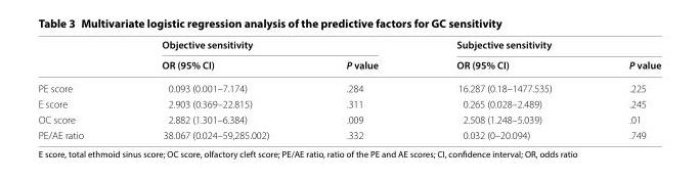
<table><thead><tr><td rowspan="2"></td><td colspan="2">Objective sensitivity</td><td colspan="2">Subjective sensitivity</td></tr><tr><td>OR (95% CI)</td><td>P value</td><td>OR (95% CI)</td><td>P value</td></tr></thead><tbody><tr><td>PE score</td><td>0.093 (0.001–7.174)</td><td>.284</td><td>16.287 (0.18–1477.535)</td><td>.225</td></tr><tr><td>E score</td><td>2.903 (0.369–22.815)</td><td>.311</td><td>0.265 (0.028–2.489)</td><td>.245</td></tr><tr><td>OC score</td><td>2.882 (1.301–6.384)</td><td>.009</td><td>2.508 (1.248–5.039)</td><td>.01</td></tr><tr><td>PE/AE ratio</td><td>38.067 (0.024–59,285.002)</td><td>.332</td><td>0.032 (0–20.094)</td><td>.749</td></tr></tbody></table>